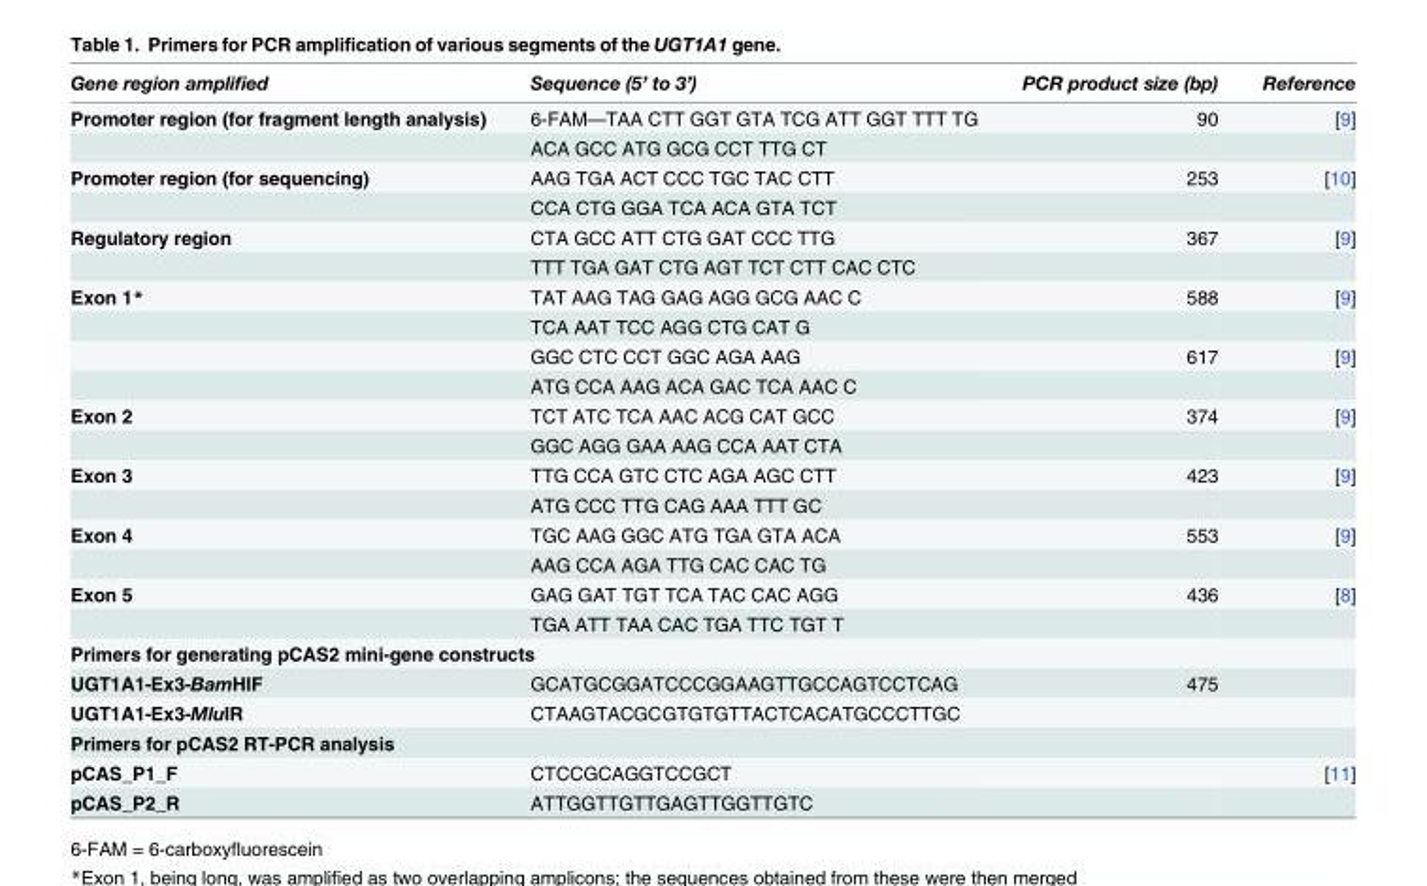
<table><thead><tr><td>Gene region amplified</td><td>Sequence (5’ to 3’)</td><td>PCR product size (bp)</td><td>Reference</td></tr></thead><tbody><tr><td rowspan="2">Promoter region (for fragment length analysis)</td><td>6-FAM—TAA CTT GGT GTA TCG ATT GGT TTT TG</td><td>90</td><td>[9]</td></tr><tr><td>ACA GCC ATG GCG CCT TTG CT</td><td></td><td></td></tr><tr><td rowspan="2">Promoter region (for sequencing)</td><td>AAG TGA ACT CCC TGC TAC CTT</td><td>253</td><td>[10]</td></tr><tr><td>CCA CTG GGA TCA ACA GTA TCT</td><td></td><td></td></tr><tr><td rowspan="2">Regulatory region</td><td>CTA GCC ATT CTG GAT CCC TTG</td><td>367</td><td>[9]</td></tr><tr><td>TTT TGA GAT CTG AGT TCT CTT CAC CTC</td><td></td><td></td></tr><tr><td rowspan="4">Exon 1*</td><td>TAT AAG TAG GAG AGG GCG AAC C</td><td>588</td><td>[9]</td></tr><tr><td>TCA AAT TCC AGG CTG CAT G</td><td></td><td></td></tr><tr><td>GGC CTC CCT GGC AGA AAG</td><td>617</td><td>[9]</td></tr><tr><td>ATG CCA AAG ACA GAC TCA AAC C</td><td></td><td></td></tr><tr><td rowspan="2">Exon 2</td><td>TCT ATC TCA AAC ACG CAT GCC</td><td>374</td><td>[9]</td></tr><tr><td>GGC AGG GAA AAG CCA AAT CTA</td><td></td><td></td></tr><tr><td rowspan="2">Exon 3</td><td>TTG CCA GTC CTC AGA AGC CTT</td><td>423</td><td>[9]</td></tr><tr><td>ATG CCC TTG CAG AAA TTT GC</td><td></td><td></td></tr><tr><td rowspan="2">Exon 4</td><td>TGC AAG GGC ATG TGA GTA ACA</td><td>553</td><td>[9]</td></tr><tr><td>AAG CCA AGA TTG CAC CAC TG</td><td></td><td></td></tr><tr><td rowspan="2">Exon 5</td><td>GAG GAT TGT TCA TAC CAC AGG</td><td>436</td><td>[8]</td></tr><tr><td>TGA ATT TAA CAC TGA TTC TGT T</td><td></td><td></td></tr><tr><td colspan="4">Primers for generating pCAS2 mini-gene constructs</td></tr><tr><td>UGT1A1-Ex3-BamHIF</td><td>GCATGCGGATCCCGGAAGTTGCCAGTCCTCAG</td><td>475</td><td></td></tr><tr><td>UGT1A1-Ex3-MluIR</td><td>CTAAGTACGCGTGTGTTACTCACATGCCCTTGC</td><td></td><td></td></tr><tr><td colspan="4">Primers for pCAS2 RT-PCR analysis</td></tr><tr><td>pCAS_P1_F</td><td>CTCCGCAGGTCCGCT</td><td></td><td>[11]</td></tr><tr><td>pCAS_P2_R</td><td>ATTGGTTGTTGAGTTGGTTGTC</td><td></td><td></td></tr></tbody></table>